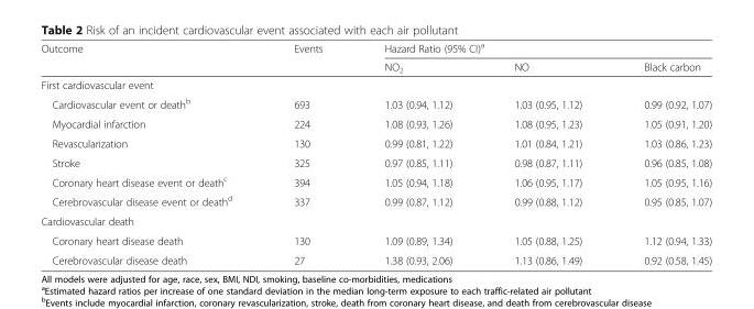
<table><thead><tr><td rowspan="2">Outcome</td><td rowspan="2">Events</td><td colspan="3">Hazard Ratio (95% CI)<sup>a</sup></td></tr><tr><td>NO<sub>2</sub></td><td>NO</td><td>Black carbon</td></tr></thead><tbody><tr><td colspan="5">First cardiovascular event</td></tr><tr><td>Cardiovascular event or death<sup>b</sup></td><td>693</td><td>1.03 (0.94, 1.12)</td><td>1.03 (0.95, 1.12)</td><td>0.99 (0.92, 1.07)</td></tr><tr><td>Myocardial infarction</td><td>224</td><td>1.08 (0.93, 1.26)</td><td>1.08 (0.95, 1.23)</td><td>1.05 (0.91, 1.20)</td></tr><tr><td>Revascularization</td><td>130</td><td>0.99 (0.81, 1.22)</td><td>1.01 (0.84, 1.21)</td><td>1.03 (0.86, 1.23)</td></tr><tr><td>Stroke</td><td>325</td><td>0.97 (0.85, 1.11)</td><td>0.98 (0.87, 1.11)</td><td>0.96 (0.85, 1.08)</td></tr><tr><td>Coronary heart disease event or death<sup>c</sup></td><td>394</td><td>1.05 (0.94, 1.18)</td><td>1.06 (0.95, 1.17)</td><td>1.05 (0.95, 1.16)</td></tr><tr><td>Cerebrovascular disease event or death<sup>d</sup></td><td>337</td><td>0.99 (0.87, 1.12)</td><td>0.99 (0.88, 1.12)</td><td>0.95 (0.85, 1.07)</td></tr><tr><td colspan="5">Cardiovascular death</td></tr><tr><td>Coronary heart disease death</td><td>130</td><td>1.09 (0.89, 1.34)</td><td>1.05 (0.88, 1.25)</td><td>1.12 (0.94, 1.33)</td></tr><tr><td>Cerebrovascular disease death</td><td>27</td><td>1.38 (0.93, 2.06)</td><td>1.13 (0.86, 1.49)</td><td>0.92 (0.58, 1.45)</td></tr></tbody></table>